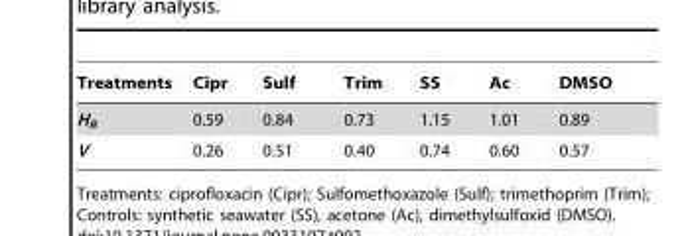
<table><thead><tr><td>Treatments</td><td>Cipr</td><td>Sulf</td><td>Trim</td><td>SS</td><td>Ac</td><td>DMSO</td></tr></thead><tbody><tr><td>H<sub>B</sub></td><td>0.59</td><td>0.84</td><td>0.73</td><td>1.15</td><td>1.01</td><td>0.89</td></tr><tr><td>V</td><td>0.26</td><td>0.51</td><td>0.40</td><td>0.74</td><td>0.60</td><td>0.57</td></tr></tbody></table>